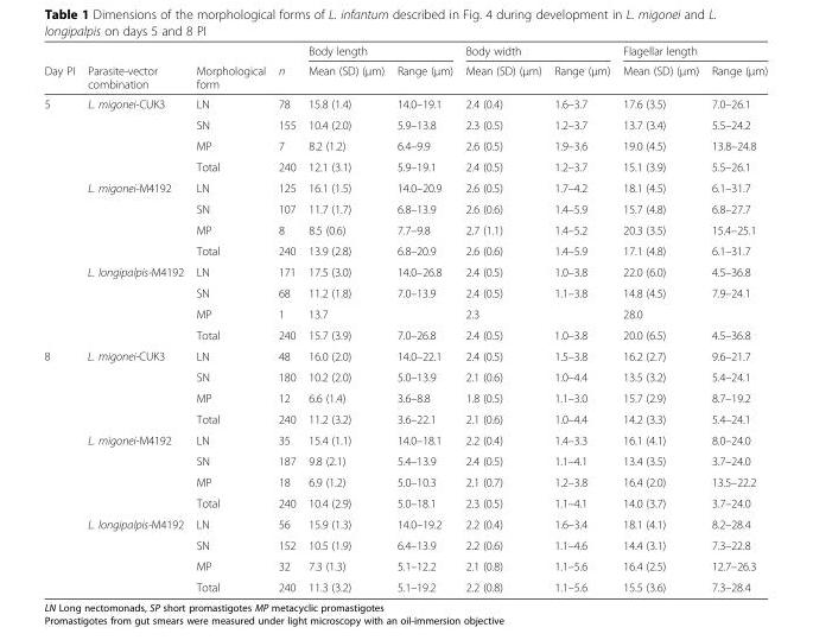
<table><thead><tr><td rowspan="2">Day PI</td><td rowspan="2">Parasite-vector combination</td><td rowspan="2">Morphological form</td><td rowspan="2">n</td><td colspan="2">Body length</td><td colspan="2">Body width</td><td colspan="2">Flagellar length</td></tr><tr><td>Mean (SD) (μm)</td><td>Range (μm)</td><td>Mean (SD) (μm)</td><td>Range (μm)</td><td>Mean (SD) (μm)</td><td>Range (μm)</td></tr></thead><tbody><tr><td rowspan="12">5</td><td>L. migonei-CUK3</td><td>LN</td><td>78</td><td>15.8 (1.4)</td><td>14.0–19.1</td><td>2.4 (0.4)</td><td>1.6–3.7</td><td>17.6 (3.5)</td><td>7.0–26.1</td></tr><tr><td></td><td>SN</td><td>155</td><td>10.4 (2.0)</td><td>5.9–13.8</td><td>2.3 (0.5)</td><td>1.2–3.7</td><td>13.7 (3.4)</td><td>5.5–24.2</td></tr><tr><td></td><td>MP</td><td>7</td><td>8.2 (1.2)</td><td>6.4–9.9</td><td>2.6 (0.5)</td><td>1.9–3.6</td><td>19.0 (4.5)</td><td>13.8–24.8</td></tr><tr><td></td><td>Total</td><td>240</td><td>12.1 (3.1)</td><td>5.9–19.1</td><td>2.4 (0.5)</td><td>1.2–3.7</td><td>15.1 (3.9)</td><td>5.5–26.1</td></tr><tr><td>L. migonei-M4192</td><td>LN</td><td>125</td><td>16.1 (1.5)</td><td>14.0–20.9</td><td>2.6 (0.5)</td><td>1.7–4.2</td><td>18.1 (4.5)</td><td>6.1–31.7</td></tr><tr><td></td><td>SN</td><td>107</td><td>11.7 (1.7)</td><td>6.8–13.9</td><td>2.6 (0.6)</td><td>1.4–5.9</td><td>15.7 (4.8)</td><td>6.8–27.7</td></tr><tr><td></td><td>MP</td><td>8</td><td>8.5 (0.6)</td><td>7.7–9.8</td><td>2.7 (1.1)</td><td>1.4–5.2</td><td>20.3 (3.5)</td><td>15.4–25.1</td></tr><tr><td></td><td>Total</td><td>240</td><td>13.9 (2.8)</td><td>6.8–20.9</td><td>2.6 (0.6)</td><td>1.4–5.9</td><td>17.1 (4.8)</td><td>6.1–31.7</td></tr><tr><td>L. longipalpis-M4192</td><td>LN</td><td>171</td><td>17.5 (3.0)</td><td>14.0–26.8</td><td>2.4 (0.5)</td><td>1.0–3.8</td><td>22.0 (6.0)</td><td>4.5–36.8</td></tr><tr><td></td><td>SN</td><td>68</td><td>11.2 (1.8)</td><td>7.0–13.9</td><td>2.4 (0.5)</td><td>1.1–3.8</td><td>14.8 (4.5)</td><td>7.9–24.1</td></tr><tr><td></td><td>MP</td><td>1</td><td>13.7</td><td></td><td>2.3</td><td></td><td>28.0</td><td></td></tr><tr><td></td><td>Total</td><td>240</td><td>15.7 (3.9)</td><td>7.0–26.8</td><td>2.4 (0.5)</td><td>1.0–3.8</td><td>20.0 (6.5)</td><td>4.5–36.8</td></tr><tr><td rowspan="12">8</td><td>L. migonei-CUK3</td><td>LN</td><td>48</td><td>16.0 (2.0)</td><td>14.0–22.1</td><td>2.4 (0.5)</td><td>1.5–3.8</td><td>16.2 (2.7)</td><td>9.6–21.7</td></tr><tr><td></td><td>SN</td><td>180</td><td>10.2 (2.0)</td><td>5.0–13.9</td><td>2.1 (0.6)</td><td>1.0–4.4</td><td>13.5 (3.2)</td><td>5.4–24.1</td></tr><tr><td></td><td>MP</td><td>12</td><td>6.6 (1.4)</td><td>3.6–8.8</td><td>1.8 (0.5)</td><td>1.1–3.0</td><td>15.7 (2.9)</td><td>8.7–19.2</td></tr><tr><td></td><td>Total</td><td>240</td><td>11.2 (3.2)</td><td>3.6–22.1</td><td>2.1 (0.6)</td><td>1.0–4.4</td><td>14.2 (3.3)</td><td>5.4–24.1</td></tr><tr><td>L. migonei-M4192</td><td>LN</td><td>35</td><td>15.4 (1.1)</td><td>14.0–18.1</td><td>2.2 (0.4)</td><td>1.4–3.3</td><td>16.1 (4.1)</td><td>8.0–24.0</td></tr><tr><td></td><td>SN</td><td>187</td><td>9.8 (2.1)</td><td>5.4–13.9</td><td>2.4 (0.5)</td><td>1.1–4.1</td><td>13.4 (3.5)</td><td>3.7–24.0</td></tr><tr><td></td><td>MP</td><td>18</td><td>6.9 (1.2)</td><td>5.0–10.3</td><td>2.1 (0.7)</td><td>1.2–3.8</td><td>16.4 (2.0)</td><td>13.5–22.2</td></tr><tr><td></td><td>Total</td><td>240</td><td>10.4 (2.9)</td><td>5.0–18.1</td><td>2.3 (0.5)</td><td>1.1–4.1</td><td>14.0 (3.7)</td><td>3.7–24.0</td></tr><tr><td>L. longipalpis-M4192</td><td>LN</td><td>56</td><td>15.9 (1.3)</td><td>14.0–19.2</td><td>2.2 (0.4)</td><td>1.6–3.4</td><td>18.1 (4.1)</td><td>8.2–28.4</td></tr><tr><td></td><td>SN</td><td>152</td><td>10.5 (1.9)</td><td>6.4–13.9</td><td>2.2 (0.6)</td><td>1.1–4.6</td><td>14.4 (3.1)</td><td>7.3–22.8</td></tr><tr><td></td><td>MP</td><td>32</td><td>7.3 (1.3)</td><td>5.1–12.2</td><td>2.1 (0.8)</td><td>1.1–5.6</td><td>16.4 (2.5)</td><td>12.7–26.3</td></tr><tr><td></td><td>Total</td><td>240</td><td>11.3 (3.2)</td><td>5.1–19.2</td><td>2.2 (0.8)</td><td>1.1–5.6</td><td>15.5 (3.6)</td><td>7.3–28.4</td></tr></tbody></table>